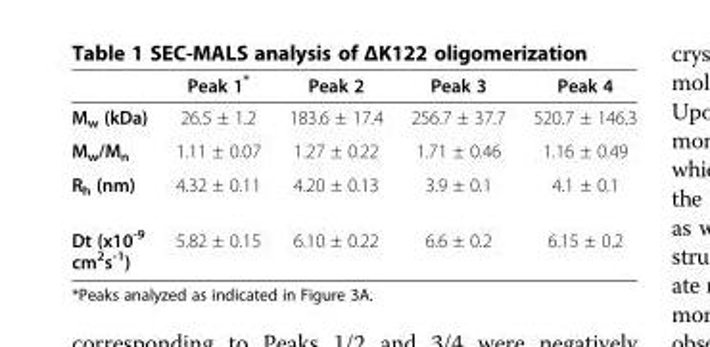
<table><thead><tr><td></td><td>Peak 1*</td><td>Peak 2</td><td>Peak 3</td><td>Peak 4</td></tr></thead><tbody><tr><td>M<sub>w</sub> (kDa)</td><td>26.5 ± 1.2</td><td>183.6 ± 17.4</td><td>256.7 ± 37.7</td><td>520.7 ± 146.3</td></tr><tr><td>M<sub>w</sub>/M<sub>n</sub></td><td>1.11 ± 0.07</td><td>1.27 ± 0.22</td><td>1.71 ± 0.46</td><td>1.16 ± 0.49</td></tr><tr><td>R<sub>h</sub> (nm)</td><td>4.32 ± 0.11</td><td>4.20 ± 0.13</td><td>3.9 ± 0.1</td><td>4.1 ± 0.1</td></tr><tr><td>Dt (x10<sup>-9</sup> cm<sup>2</sup>s<sup>-1</sup>)</td><td>5.82 ± 0.15</td><td>6.10 ± 0.22</td><td>6.6 ± 0.2</td><td>6.15 ± 0.2</td></tr></tbody></table>